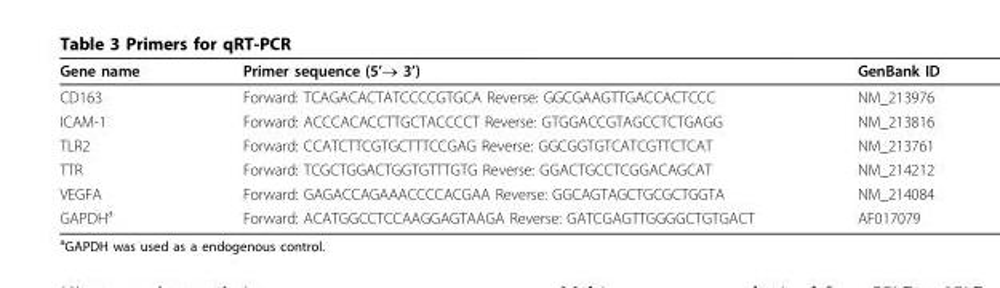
<table><thead><tr><td>Gene name</td><td>Primer sequence (5’→ 3’)</td><td>GenBank ID</td></tr></thead><tbody><tr><td>CD163</td><td>Forward: TCAGACACTATCCCCGTGCA Reverse: GGCGAAGTTGACCACTCCC</td><td>NM_213976</td></tr><tr><td>ICAM-1</td><td>Forward: ACCCACACCTTGCTACCCCT Reverse: GTGGACCGTAGCCTCTGAGG</td><td>NM_213816</td></tr><tr><td>TLR2</td><td>Forward: CCATCTTCGTGCTTTCCGAG Reverse: GGCGGTGTCATCGTTCTCAT</td><td>NM_213761</td></tr><tr><td>TTR</td><td>Forward: TCGCTGGACTGGTGTTTGTG Reverse: GGACTGCCTCGGACAGCAT</td><td>NM_214212</td></tr><tr><td>VEGFA</td><td>Forward: GAGACCAGAAACCCCACGAA Reverse: GGCAGTAGCTGCGCTGGTA</td><td>NM_214084</td></tr><tr><td>GAPDH<sup>a</sup></td><td>Forward: ACATGGCCTCCAAGGAGTAAGA Reverse: GATCGAGTTGGGGCTGTGACT</td><td>AF017079</td></tr></tbody></table>